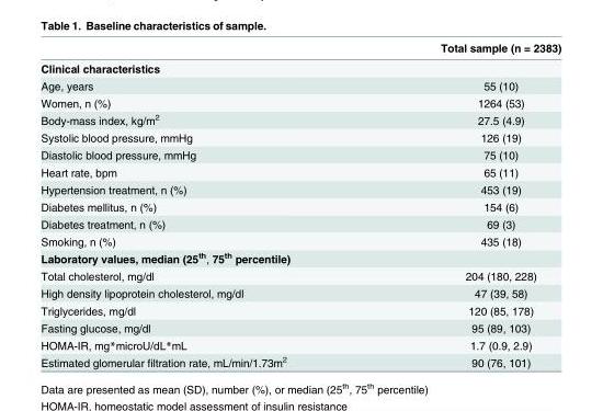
<table><thead><tr><td></td><td>Total sample (n = 2383)</td></tr></thead><tbody><tr><td colspan="2">Clinical characteristics</td></tr><tr><td>Age, years</td><td>55 (10)</td></tr><tr><td>Women, n (%)</td><td>1264 (53)</td></tr><tr><td>Body-mass index, kg/m<sup>2</sup></td><td>27.5 (4.9)</td></tr><tr><td>Systolic blood pressure, mmHg</td><td>126 (19)</td></tr><tr><td>Diastolic blood pressure, mmHg</td><td>75 (10)</td></tr><tr><td>Heart rate, bpm</td><td>65 (11)</td></tr><tr><td>Hypertension treatment, n (%)</td><td>453 (19)</td></tr><tr><td>Diabetes mellitus, n (%)</td><td>154 (6)</td></tr><tr><td>Diabetes treatment, n (%)</td><td>69 (3)</td></tr><tr><td>Smoking, n (%)</td><td>435 (18)</td></tr><tr><td colspan="2">Laboratory values, median (25<sup>th</sup>, 75<sup>th</sup> percentile)</td></tr><tr><td>Total cholesterol, mg/dl</td><td>204 (180, 228)</td></tr><tr><td>High density lipoprotein cholesterol, mg/dl</td><td>47 (39, 58)</td></tr><tr><td>Triglycerides, mg/dl</td><td>120 (85, 178)</td></tr><tr><td>Fasting glucose, mg/dl</td><td>95 (89, 103)</td></tr><tr><td>HOMA-IR, mg*microU/dL*mL</td><td>1.7 (0.9, 2.9)</td></tr><tr><td>Estimated glomerular filtration rate, mL/min/1.73m<sup>2</sup></td><td>90 (76, 101)</td></tr></tbody></table>